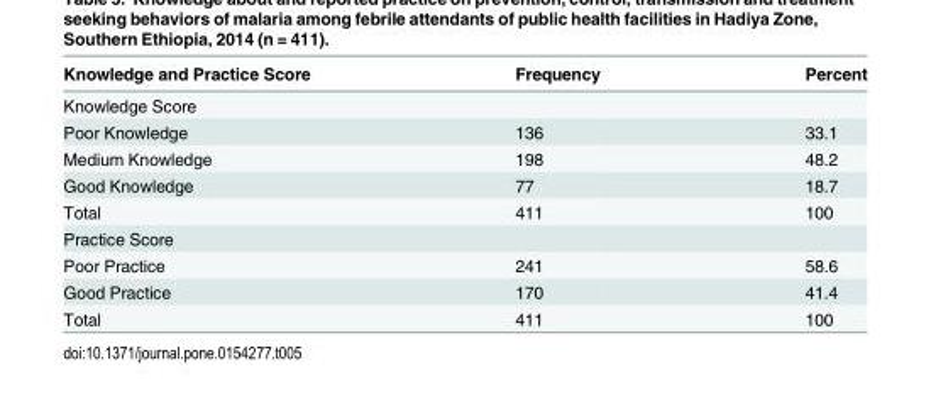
<table><thead><tr><td>Knowledge and Practice Score</td><td>Frequency</td><td>Percent</td></tr></thead><tbody><tr><td colspan="3">Knowledge Score</td></tr><tr><td>Poor Knowledge</td><td>136</td><td>33.1</td></tr><tr><td>Medium Knowledge</td><td>198</td><td>48.2</td></tr><tr><td>Good Knowledge</td><td>77</td><td>18.7</td></tr><tr><td>Total</td><td>411</td><td>100</td></tr><tr><td colspan="3">Practice Score</td></tr><tr><td>Poor Practice</td><td>241</td><td>58.6</td></tr><tr><td>Good Practice</td><td>170</td><td>41.4</td></tr><tr><td>Total</td><td>411</td><td>100</td></tr></tbody></table>